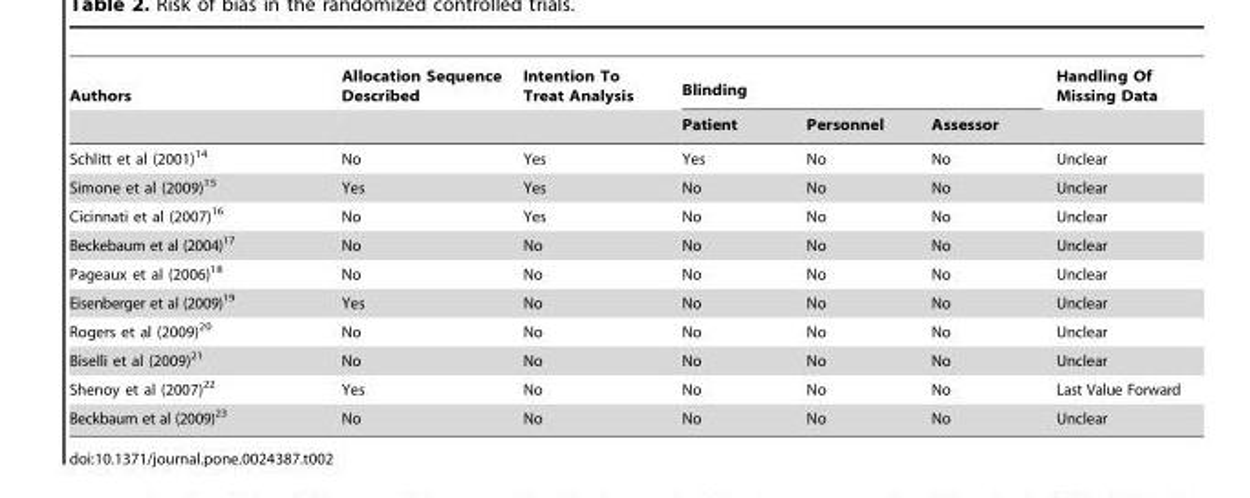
<table><thead><tr><td rowspan="2">Authors</td><td rowspan="2">Allocation Sequence Described</td><td rowspan="2">Intention To Treat Analysis</td><td colspan="3">Blinding</td><td rowspan="2">Handling Of Missing Data</td></tr><tr><td>Patient</td><td>Personnel</td><td>Assessor</td></tr></thead><tbody><tr><td>Schlitt et al (2001)<sup>14</sup></td><td>No</td><td>Yes</td><td>Yes</td><td>No</td><td>No</td><td>Unclear</td></tr><tr><td>Simone et al (2009)<sup>15</sup></td><td>Yes</td><td>Yes</td><td>No</td><td>No</td><td>No</td><td>Unclear</td></tr><tr><td>Cicinnati et al (2007)<sup>16</sup></td><td>No</td><td>Yes</td><td>No</td><td>No</td><td>No</td><td>Unclear</td></tr><tr><td>Beckebaum et al (2004)<sup>17</sup></td><td>No</td><td>No</td><td>No</td><td>No</td><td>No</td><td>Unclear</td></tr><tr><td>Pageaux et al (2006)<sup>18</sup></td><td>No</td><td>No</td><td>No</td><td>No</td><td>No</td><td>Unclear</td></tr><tr><td>Eisenberger et al (2009)<sup>19</sup></td><td>Yes</td><td>No</td><td>No</td><td>No</td><td>No</td><td>Unclear</td></tr><tr><td>Rogers et al (2009)<sup>20</sup></td><td>No</td><td>No</td><td>No</td><td>No</td><td>No</td><td>Unclear</td></tr><tr><td>Biselli et al (2009)<sup>21</sup></td><td>No</td><td>No</td><td>No</td><td>No</td><td>No</td><td>Unclear</td></tr><tr><td>Shenoy et al (2007)<sup>22</sup></td><td>Yes</td><td>No</td><td>No</td><td>No</td><td>No</td><td>Last Value Forward</td></tr><tr><td>Beckbaum et al (2009)<sup>23</sup></td><td>No</td><td>No</td><td>No</td><td>No</td><td>No</td><td>Unclear</td></tr></tbody></table>